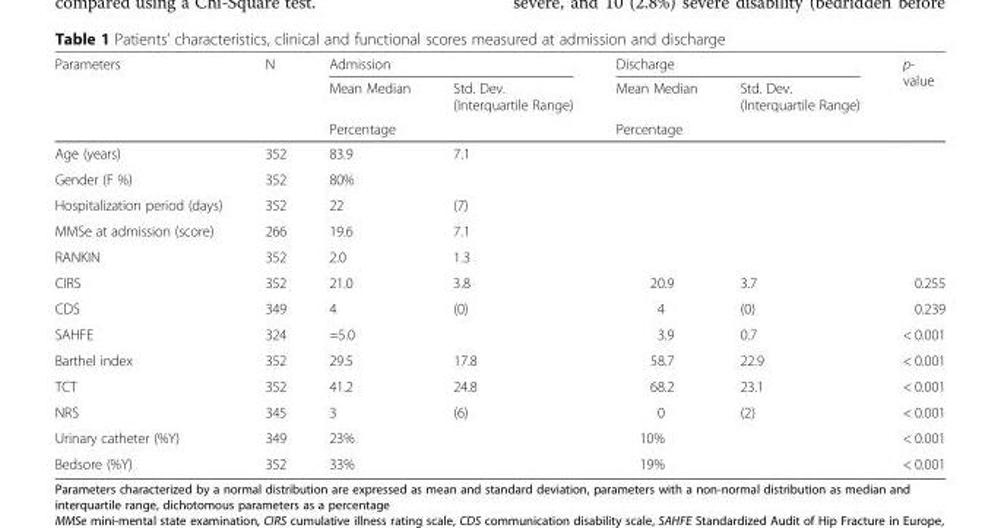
<table><thead><tr><td rowspan="3">Parameters</td><td rowspan="3">N</td><td colspan="2">Admission</td><td colspan="2">Discharge</td><td rowspan="3">p- value</td></tr><tr><td rowspan="2">Mean Median Percentage</td><td rowspan="2">Std. Dev. (Interquartile Range)</td><td rowspan="2">Mean Median Percentage</td><td rowspan="2">Std. Dev. (Interquartile Range)</td></tr><tr></tr></thead><tbody><tr><td>Age (years)</td><td>352</td><td>83.9</td><td>7.1</td><td></td><td></td><td></td></tr><tr><td>Gender (F %)</td><td>352</td><td>80%</td><td></td><td></td><td></td><td></td></tr><tr><td>Hospitalization period (days)</td><td>352</td><td>22</td><td>(7)</td><td></td><td></td><td></td></tr><tr><td>MMSe at admission (score)</td><td>266</td><td>19.6</td><td>7.1</td><td></td><td></td><td></td></tr><tr><td>RANKIN</td><td>352</td><td>2.0</td><td>1.3</td><td></td><td></td><td></td></tr><tr><td>CIRS</td><td>352</td><td>21.0</td><td>3.8</td><td>20.9</td><td>3.7</td><td>0.255</td></tr><tr><td>CDS</td><td>349</td><td>4</td><td>(0)</td><td>4</td><td>(0)</td><td>0.239</td></tr><tr><td>SAHFE</td><td>324</td><td>=5.0</td><td></td><td>3.9</td><td>0.7</td><td>&lt; 0.001</td></tr><tr><td>Barthel index</td><td>352</td><td>29.5</td><td>17.8</td><td>58.7</td><td>22.9</td><td>&lt; 0.001</td></tr><tr><td>TCT</td><td>352</td><td>41.2</td><td>24.8</td><td>68.2</td><td>23.1</td><td>&lt; 0.001</td></tr><tr><td>NRS</td><td>345</td><td>3</td><td>(6)</td><td>0</td><td>(2)</td><td>&lt; 0.001</td></tr><tr><td>Urinary catheter (%Y)</td><td>349</td><td>23%</td><td></td><td>10%</td><td></td><td>&lt; 0.001</td></tr><tr><td>Bedsore (%Y)</td><td>352</td><td>33%</td><td></td><td>19%</td><td></td><td>&lt; 0.001</td></tr></tbody></table>